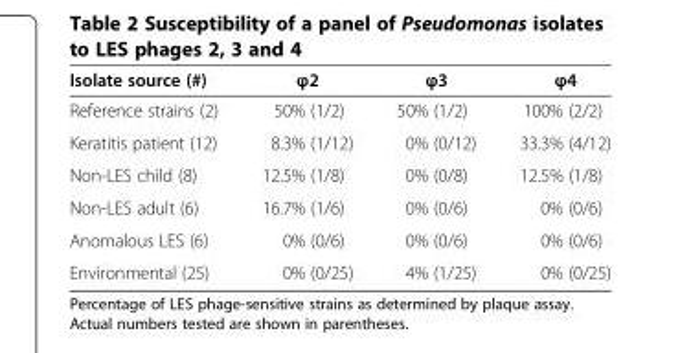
<table><thead><tr><td>Isolate source (#)</td><td>φ2</td><td>φ3</td><td>φ4</td></tr></thead><tbody><tr><td>Reference strains (2)</td><td>50% (1/2)</td><td>50% (1/2)</td><td>100% (2/2)</td></tr><tr><td>Keratitis patient (12)</td><td>8.3% (1/12)</td><td>0% (0/12)</td><td>33.3% (4/12)</td></tr><tr><td>Non-LES child (8)</td><td>12.5% (1/8)</td><td>0% (0/8)</td><td>12.5% (1/8)</td></tr><tr><td>Non-LES adult (6)</td><td>16.7% (1/6)</td><td>0% (0/6)</td><td>0% (0/6)</td></tr><tr><td>Anomalous LES (6)</td><td>0% (0/6)</td><td>0% (0/6)</td><td>0% (0/6)</td></tr><tr><td>Environmental (25)</td><td>0% (0/25)</td><td>4% (1/25)</td><td>0% (0/25)</td></tr></tbody></table>